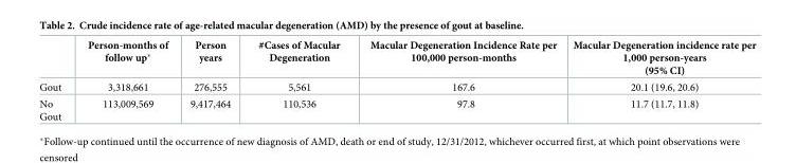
<table><thead><tr><td></td><td>Person-months of follow up*</td><td>Person years</td><td>#Cases of Macular Degeneration</td><td>Macular Degeneration Incidence Rate per 100,000 person-months</td><td>Macular Degeneration incidence rate per 1,000 person-years (95% CI)</td></tr></thead><tbody><tr><td>Gout</td><td>3,318,661</td><td>276,555</td><td>5,561</td><td>167.6</td><td>20.1 (19.6, 20.6)</td></tr><tr><td>No Gout</td><td>113,009,569</td><td>9,417,464</td><td>110,536</td><td>97.8</td><td>11.7 (11.7, 11.8)</td></tr></tbody></table>